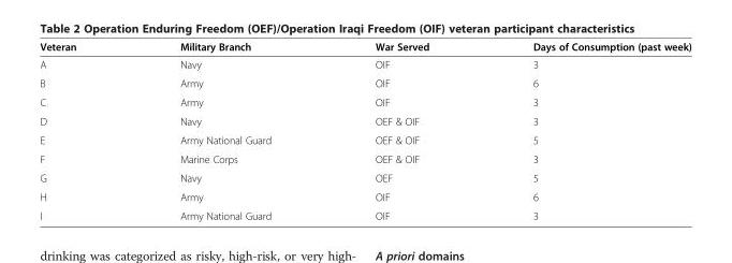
<table><thead><tr><td>Veteran</td><td>Military Branch</td><td>War Served</td><td>Days of Consumption (past week)</td></tr></thead><tbody><tr><td>A</td><td>Navy</td><td>OIF</td><td>3</td></tr><tr><td>B</td><td>Army</td><td>OIF</td><td>6</td></tr><tr><td>C</td><td>Army</td><td>OIF</td><td>3</td></tr><tr><td>D</td><td>Navy</td><td>OEF &amp; OIF</td><td>3</td></tr><tr><td>E</td><td>Army National Guard</td><td>OEF &amp; OIF</td><td>5</td></tr><tr><td>F</td><td>Marine Corps</td><td>OEF &amp; OIF</td><td>3</td></tr><tr><td>G</td><td>Navy</td><td>OEF</td><td>5</td></tr><tr><td>H</td><td>Army</td><td>OIF</td><td>6</td></tr><tr><td>I</td><td>Army National Guard</td><td>OIF</td><td>3</td></tr></tbody></table>